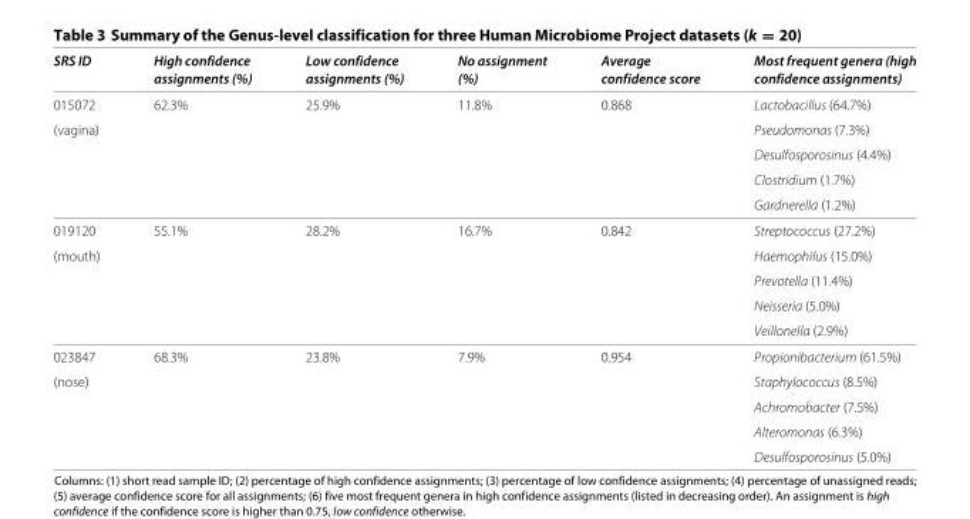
<table><thead><tr><td rowspan="2">SRS ID</td><td rowspan="2">High confidence assignments (%)</td><td rowspan="2">Low confidence assignments (%)</td><td rowspan="2">No assignment (%)</td><td rowspan="2">Average confidence score</td><td rowspan="2">Most frequent genera (high confidence assignments)</td></tr><tr></tr></thead><tbody><tr><td>015072</td><td>62.3%</td><td>25.9%</td><td>11.8%</td><td>0.868</td><td>Lactobacillus (64.7%)</td></tr><tr><td rowspan="4">(vagina)</td><td></td><td></td><td></td><td></td><td>Pseudomonas (7.3%)</td></tr><tr><td></td><td></td><td></td><td></td><td>Desulfosporosinus (4.4%)</td></tr><tr><td></td><td></td><td></td><td></td><td>Clostridium (1.7%)</td></tr><tr><td></td><td></td><td></td><td></td><td>Gardnerella (1.2%)</td></tr><tr><td>019120</td><td>55.1%</td><td>28.2%</td><td>16.7%</td><td>0.842</td><td>Streptococcus (27.2%)</td></tr><tr><td rowspan="4">(mouth)</td><td></td><td></td><td></td><td></td><td>Haemophilus (15.0%)</td></tr><tr><td></td><td></td><td></td><td></td><td>Prevotella (11.4%)</td></tr><tr><td></td><td></td><td></td><td></td><td>Neisseria (5.0%)</td></tr><tr><td></td><td></td><td></td><td></td><td>Veillonella (2.9%)</td></tr><tr><td>023847</td><td>68.3%</td><td>23.8%</td><td>7.9%</td><td>0.954</td><td>Propionibacterium (61.5%)</td></tr><tr><td rowspan="4">(nose)</td><td></td><td></td><td></td><td></td><td>Staphylococcus (8.5%)</td></tr><tr><td></td><td></td><td></td><td></td><td>Achromobacter (7.5%)</td></tr><tr><td></td><td></td><td></td><td></td><td>Alteromonas (6.3%)</td></tr><tr><td></td><td></td><td></td><td></td><td>Desulfosporosinus (5.0%)</td></tr></tbody></table>